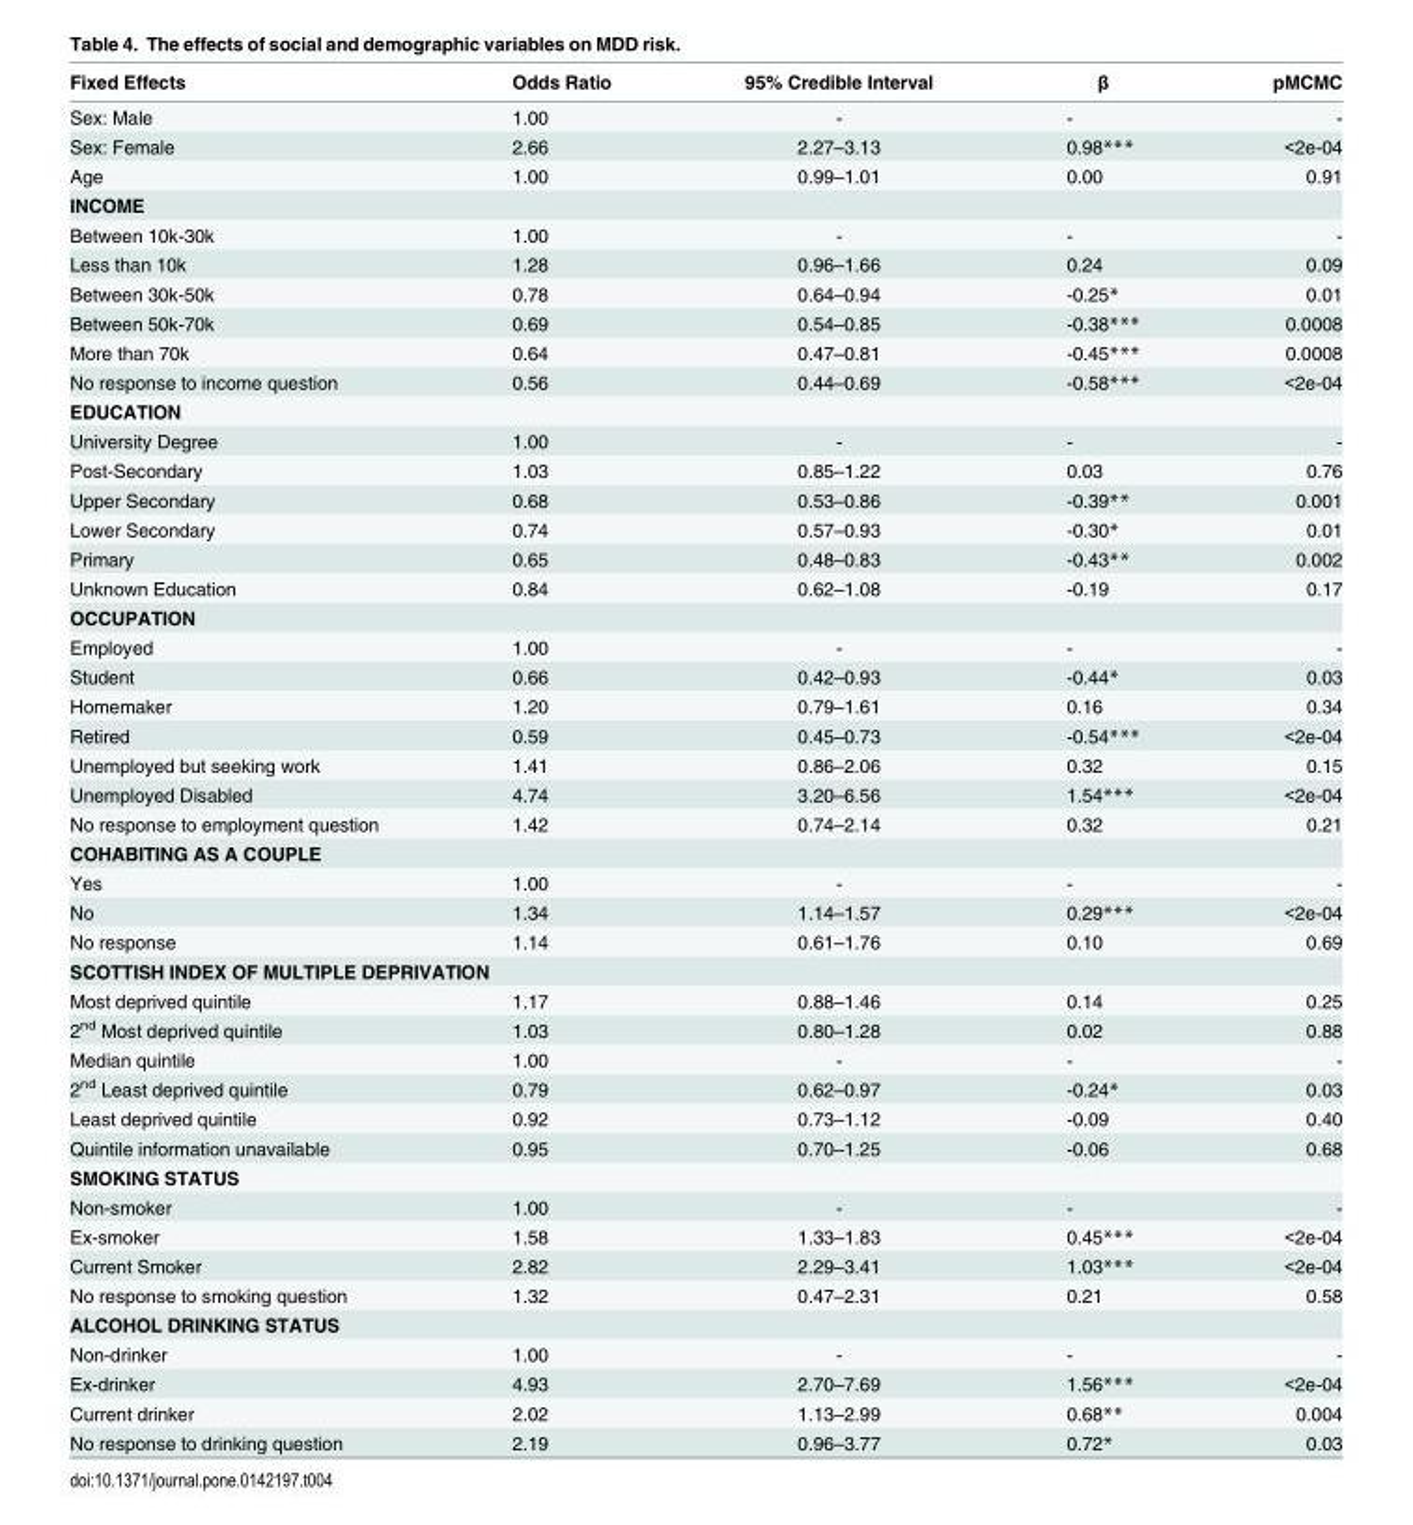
<table><thead><tr><td>Fixed Effects</td><td>Odds Ratio</td><td>95% Credible Interval</td><td>β</td><td>pMCMC</td></tr></thead><tbody><tr><td>Sex: Male</td><td>1.00</td><td>-</td><td>-</td><td>-</td></tr><tr><td>Sex: Female</td><td>2.66</td><td>2.27–3.13</td><td>0.98***</td><td>&lt;2e-04</td></tr><tr><td>Age</td><td>1.00</td><td>0.99–1.01</td><td>0.00</td><td>0.91</td></tr><tr><td colspan="5">INCOME</td></tr><tr><td>Between 10k-30k</td><td>1.00</td><td>-</td><td>-</td><td>-</td></tr><tr><td>Less than 10k</td><td>1.28</td><td>0.96–1.66</td><td>0.24</td><td>0.09</td></tr><tr><td>Between 30k-50k</td><td>0.78</td><td>0.64–0.94</td><td>-0.25*</td><td>0.01</td></tr><tr><td>Between 50k-70k</td><td>0.69</td><td>0.54–0.85</td><td>-0.38***</td><td>0.0008</td></tr><tr><td>More than 70k</td><td>0.64</td><td>0.47–0.81</td><td>-0.45***</td><td>0.0008</td></tr><tr><td>No response to income question</td><td>0.56</td><td>0.44–0.69</td><td>-0.58***</td><td>&lt;2e-04</td></tr><tr><td colspan="5">EDUCATION</td></tr><tr><td>University Degree</td><td>1.00</td><td>-</td><td>-</td><td>-</td></tr><tr><td>Post-Secondary</td><td>1.03</td><td>0.85–1.22</td><td>0.03</td><td>0.76</td></tr><tr><td>Upper Secondary</td><td>0.68</td><td>0.53–0.86</td><td>-0.39**</td><td>0.001</td></tr><tr><td>Lower Secondary</td><td>0.74</td><td>0.57–0.93</td><td>-0.30*</td><td>0.01</td></tr><tr><td>Primary</td><td>0.65</td><td>0.48–0.83</td><td>-0.43**</td><td>0.002</td></tr><tr><td>Unknown Education</td><td>0.84</td><td>0.62–1.08</td><td>-0.19</td><td>0.17</td></tr><tr><td colspan="5">OCCUPATION</td></tr><tr><td>Employed</td><td>1.00</td><td>-</td><td>-</td><td>-</td></tr><tr><td>Student</td><td>0.66</td><td>0.42–0.93</td><td>-0.44*</td><td>0.03</td></tr><tr><td>Homemaker</td><td>1.20</td><td>0.79–1.61</td><td>0.16</td><td>0.34</td></tr><tr><td>Retired</td><td>0.59</td><td>0.45–0.73</td><td>-0.54***</td><td>&lt;2e-04</td></tr><tr><td>Unemployed but seeking work</td><td>1.41</td><td>0.86–2.06</td><td>0.32</td><td>0.15</td></tr><tr><td>Unemployed Disabled</td><td>4.74</td><td>3.20–6.56</td><td>1.54***</td><td>&lt;2e-04</td></tr><tr><td>No response to employment question</td><td>1.42</td><td>0.74–2.14</td><td>0.32</td><td>0.21</td></tr><tr><td colspan="5">COHABITING AS A COUPLE</td></tr><tr><td>Yes</td><td>1.00</td><td>-</td><td>-</td><td>-</td></tr><tr><td>No</td><td>1.34</td><td>1.14–1.57</td><td>0.29***</td><td>&lt;2e-04</td></tr><tr><td>No response</td><td>1.14</td><td>0.61–1.76</td><td>0.10</td><td>0.69</td></tr><tr><td colspan="5">SCOTTISH INDEX OF MULTIPLE DEPRIVATION</td></tr><tr><td>Most deprived quintile</td><td>1.17</td><td>0.88–1.46</td><td>0.14</td><td>0.25</td></tr><tr><td>2<sup>nd</sup> Most deprived quintile</td><td>1.03</td><td>0.80–1.28</td><td>0.02</td><td>0.88</td></tr><tr><td>Median quintile</td><td>1.00</td><td>-</td><td>-</td><td>-</td></tr><tr><td>2<sup>nd</sup> Least deprived quintile</td><td>0.79</td><td>0.62–0.97</td><td>-0.24*</td><td>0.03</td></tr><tr><td>Least deprived quintile</td><td>0.92</td><td>0.73–1.12</td><td>-0.09</td><td>0.40</td></tr><tr><td>Quintile information unavailable</td><td>0.95</td><td>0.70–1.25</td><td>-0.06</td><td>0.68</td></tr><tr><td colspan="5">SMOKING STATUS</td></tr><tr><td>Non-smoker</td><td>1.00</td><td>-</td><td>-</td><td>-</td></tr><tr><td>Ex-smoker</td><td>1.58</td><td>1.33–1.83</td><td>0.45***</td><td>&lt;2e-04</td></tr><tr><td>Current Smoker</td><td>2.82</td><td>2.29–3.41</td><td>1.03***</td><td>&lt;2e-04</td></tr><tr><td>No response to smoking question</td><td>1.32</td><td>0.47–2.31</td><td>0.21</td><td>0.58</td></tr><tr><td colspan="5">ALCOHOL DRINKING STATUS</td></tr><tr><td>Non-drinker</td><td>1.00</td><td>-</td><td>-</td><td>-</td></tr><tr><td>Ex-drinker</td><td>4.93</td><td>2.70–7.69</td><td>1.56***</td><td>&lt;2e-04</td></tr><tr><td>Current drinker</td><td>2.02</td><td>1.13–2.99</td><td>0.68**</td><td>0.004</td></tr><tr><td>No response to drinking question</td><td>2.19</td><td>0.96–3.77</td><td>0.72*</td><td>0.03</td></tr></tbody></table>